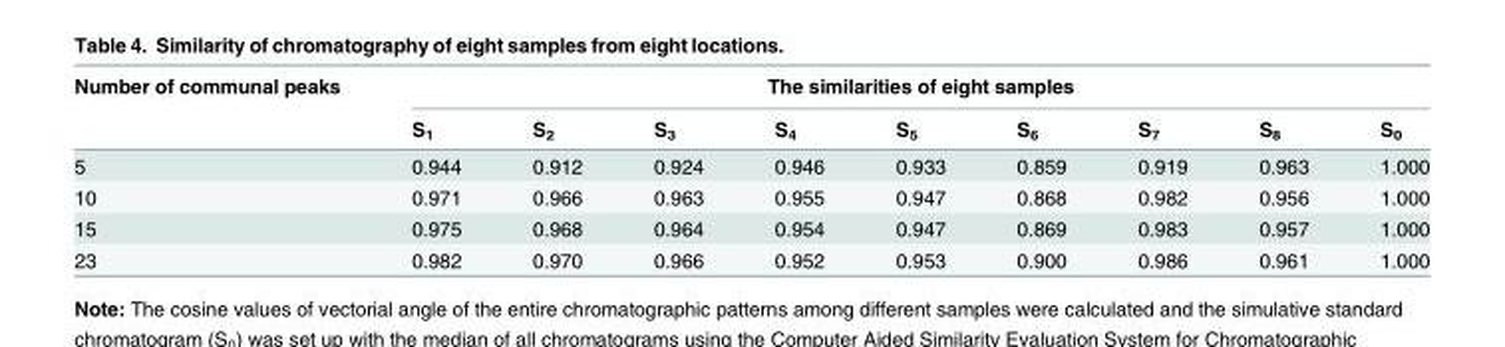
<table><thead><tr><td rowspan="2">Number of communal peaks</td><td colspan="9">The similarities of eight samples</td></tr><tr><td>S<sub>1</sub></td><td>S<sub>2</sub></td><td>S<sub>3</sub></td><td>S<sub>4</sub></td><td>S<sub>5</sub></td><td>S<sub>6</sub></td><td>S<sub>7</sub></td><td>S<sub>8</sub></td><td>S<sub>0</sub></td></tr></thead><tbody><tr><td>5</td><td>0.944</td><td>0.912</td><td>0.924</td><td>0.946</td><td>0.933</td><td>0.859</td><td>0.919</td><td>0.963</td><td>1.000</td></tr><tr><td>10</td><td>0.971</td><td>0.966</td><td>0.963</td><td>0.955</td><td>0.947</td><td>0.868</td><td>0.982</td><td>0.956</td><td>1.000</td></tr><tr><td>15</td><td>0.975</td><td>0.968</td><td>0.964</td><td>0.954</td><td>0.947</td><td>0.869</td><td>0.983</td><td>0.957</td><td>1.000</td></tr><tr><td>23</td><td>0.982</td><td>0.970</td><td>0.966</td><td>0.952</td><td>0.953</td><td>0.900</td><td>0.986</td><td>0.961</td><td>1.000</td></tr></tbody></table>